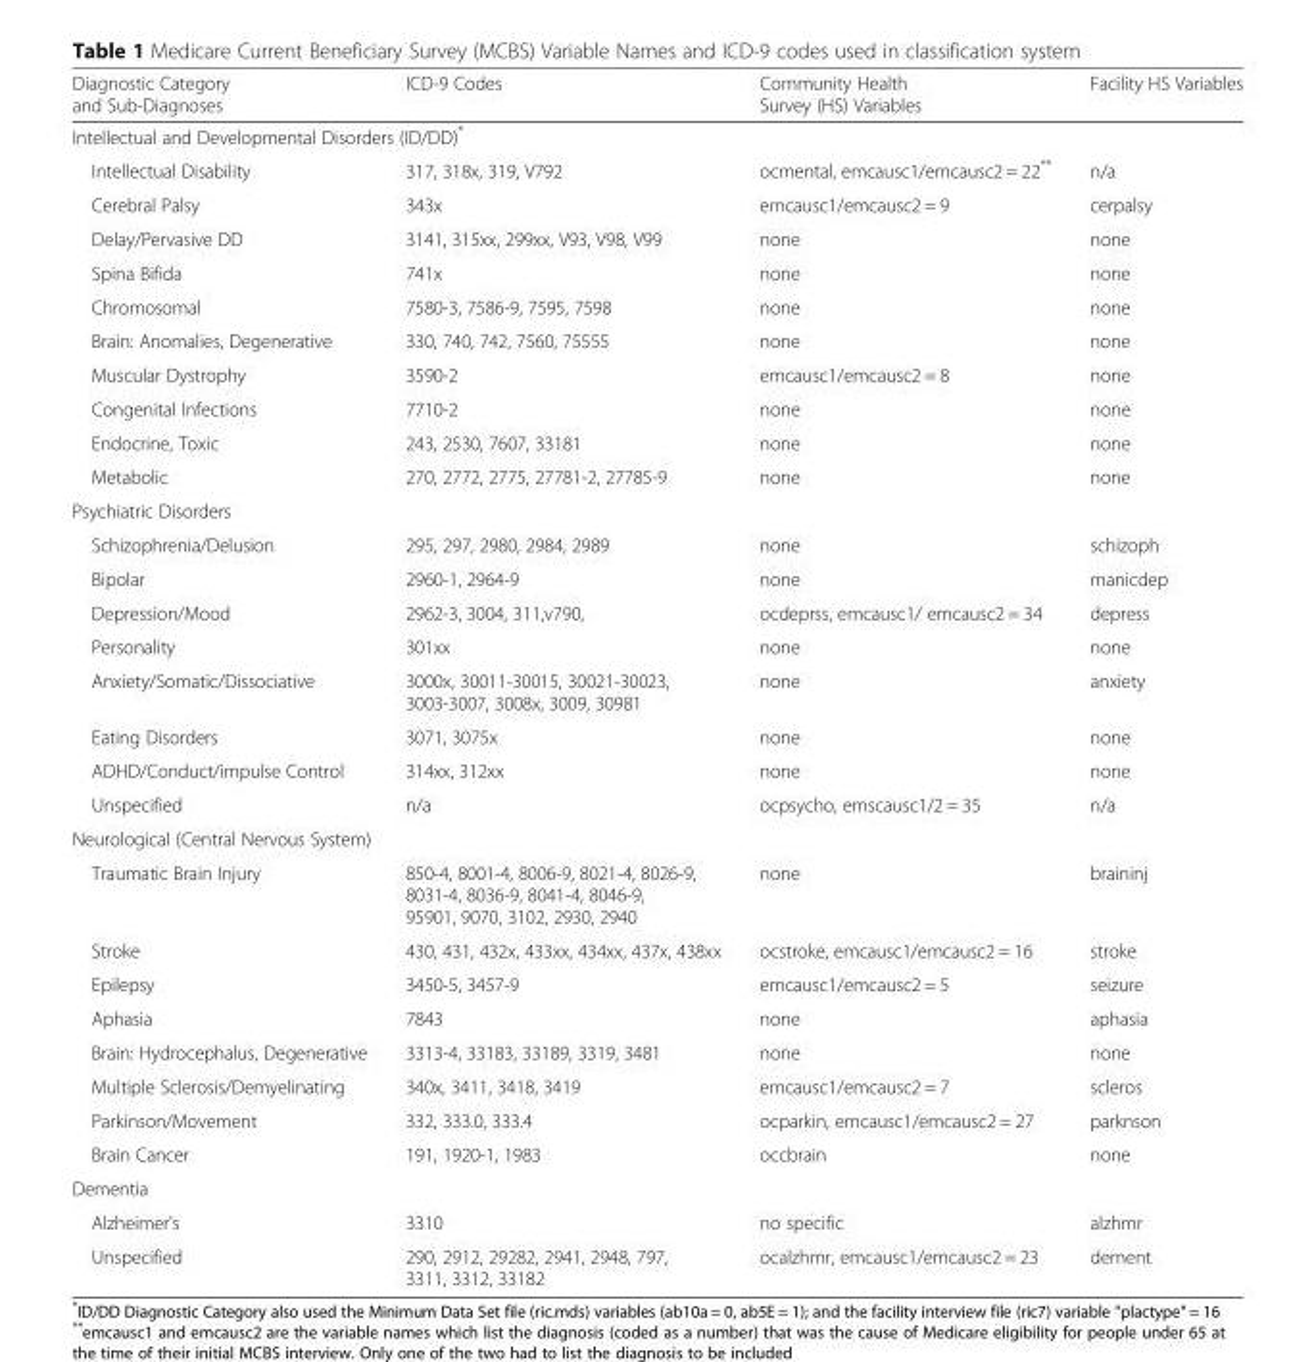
<table><thead><tr><td>Diagnostic Category and Sub-Diagnoses</td><td>ICD-9 Codes</td><td>Community Health Survey (HS) Variables</td><td>Facility HS Variables</td></tr></thead><tbody><tr><td colspan="4">Intellectual and Developmental Disorders (ID/DD)*</td></tr><tr><td>Intellectual Disability</td><td>317, 318x, 319, V792</td><td>ocmental, emcausc1/emcausc2 = 22**</td><td>n/a</td></tr><tr><td>Cerebral Palsy</td><td>343x</td><td>emcausc1/emcausc2 = 9</td><td>cerpalsy</td></tr><tr><td>Delay/Pervasive DD</td><td>3141, 315xx, 299xx, V93, V98, V99</td><td>none</td><td>none</td></tr><tr><td>Spina Bifida</td><td>741x</td><td>none</td><td>none</td></tr><tr><td>Chromosomal</td><td>7580-3, 7586-9, 7595, 7598</td><td>none</td><td>none</td></tr><tr><td>Brain: Anomalies, Degenerative</td><td>330, 740, 742, 7560, 75555</td><td>none</td><td>none</td></tr><tr><td>Muscular Dystrophy</td><td>3590-2</td><td>emcausc1/emcausc2 = 8</td><td>none</td></tr><tr><td>Congenital Infections</td><td>7710-2</td><td>none</td><td>none</td></tr><tr><td>Endocrine, Toxic</td><td>243, 2530, 7607, 33181</td><td>none</td><td>none</td></tr><tr><td>Metabolic</td><td>270, 2772, 2775, 27781-2, 27785-9</td><td>none</td><td>none</td></tr><tr><td colspan="4">Psychiatric Disorders</td></tr><tr><td>Schizophrenia/Delusion</td><td>295, 297, 2980, 2984, 2989</td><td>none</td><td>schizoph</td></tr><tr><td>Bipolar</td><td>2960-1, 2964-9</td><td>none</td><td>manicdep</td></tr><tr><td>Depression/Mood</td><td>2962-3, 3004, 311,v790,</td><td>ocdeprss, emcausc1/ emcausc2 = 34</td><td>depress</td></tr><tr><td>Personality</td><td>301xx</td><td>none</td><td>none</td></tr><tr><td>Anxiety/Somatic/Dissociative</td><td>3000x, 30011-30015, 30021-30023, 3003-3007, 3008x, 3009, 30981</td><td>none</td><td>anxiety</td></tr><tr><td>Eating Disorders</td><td>3071, 3075x</td><td>none</td><td>none</td></tr><tr><td>ADHD/Conduct/impulse Control</td><td>314xx, 312xx</td><td>none</td><td>none</td></tr><tr><td>Unspecified</td><td>n/a</td><td>ocpsycho, emscausc1/2 = 35</td><td>n/a</td></tr><tr><td colspan="4">Neurological (Central Nervous System)</td></tr><tr><td>Traumatic Brain Injury</td><td>850-4, 8001-4, 8006-9, 8021-4, 8026-9, 8031-4, 8036-9, 8041-4, 8046-9, 95901, 9070, 3102, 2930, 2940</td><td>none</td><td>braininj</td></tr><tr><td>Stroke</td><td>430, 431, 432x, 433xx, 434xx, 437x, 438xx</td><td>ocstroke, emcausc1/emcausc2 = 16</td><td>stroke</td></tr><tr><td>Epilepsy</td><td>3450-5, 3457-9</td><td>emcausc1/emcausc2 = 5</td><td>seizure</td></tr><tr><td>Aphasia</td><td>7843</td><td>none</td><td>aphasia</td></tr><tr><td>Brain: Hydrocephalus, Degenerative</td><td>3313-4, 33183, 33189, 3319, 3481</td><td>none</td><td>none</td></tr><tr><td>Multiple Sclerosis/Demyelinating</td><td>340x, 3411, 3418, 3419</td><td>emcausc1/emcausc2 = 7</td><td>scleros</td></tr><tr><td>Parkinson/Movement</td><td>332, 333.0, 333.4</td><td>ocparkin, emcausc1/emcausc2 = 27</td><td>parknson</td></tr><tr><td>Brain Cancer</td><td>191, 1920-1, 1983</td><td>occbrain</td><td>none</td></tr><tr><td colspan="4">Dementia</td></tr><tr><td>Alzheimer&#x27;s</td><td>3310</td><td>no specific</td><td>alzhmr</td></tr><tr><td>Unspecified</td><td>290, 2912, 29282, 2941, 2948, 797, 3311, 3312, 33182</td><td>ocalzhmr, emcausc1/emcausc2 = 23</td><td>dement</td></tr></tbody></table>